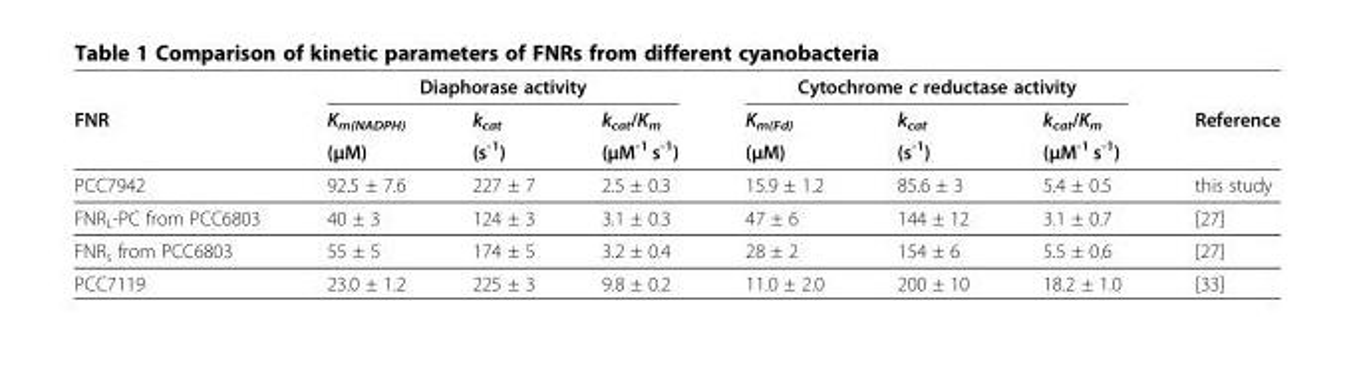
<table><thead><tr><td rowspan="3">FNR</td><td colspan="3">Diaphorase activity</td><td colspan="3">Cytochrome c reductase activity</td><td rowspan="3">Reference</td></tr><tr><td rowspan="2">K<sub>m(NADPH)</sub> (μM)</td><td rowspan="2">k<sub>cat</sub> (s<sup>-1</sup>)</td><td rowspan="2">k<sub>cat</sub>/K<sub>m</sub> (μM<sup>-1</sup> s<sup>-1</sup>)</td><td rowspan="2">K<sub>m(Fd)</sub> (μM)</td><td rowspan="2">k<sub>cat</sub> (s<sup>-1</sup>)</td><td rowspan="2">k<sub>cat</sub>/K<sub>m</sub> (μM<sup>-1</sup> s<sup>-1</sup>)</td></tr><tr></tr></thead><tbody><tr><td>PCC7942</td><td>92.5 ± 7.6</td><td>227 ± 7</td><td>2.5 ± 0.3</td><td>15.9 ± 1.2</td><td>85.6 ± 3</td><td>5.4 ± 0.5</td><td>this study</td></tr><tr><td>FNR<sub>L</sub>-PC from PCC6803</td><td>40 ± 3</td><td>124 ± 3</td><td>3.1 ± 0.3</td><td>47 ± 6</td><td>144 ± 12</td><td>3.1 ± 0.7</td><td>[27]</td></tr><tr><td>FNR<sub>s</sub> from PCC6803</td><td>55 ± 5</td><td>174 ± 5</td><td>3.2 ± 0.4</td><td>28 ± 2</td><td>154 ± 6</td><td>5.5 ± 0.6</td><td>[27]</td></tr><tr><td>PCC7119</td><td>23.0 ± 1.2</td><td>225 ± 3</td><td>9.8 ± 0.2</td><td>11.0 ± 2.0</td><td>200 ± 10</td><td>18.2 ± 1.0</td><td>[33]</td></tr></tbody></table>